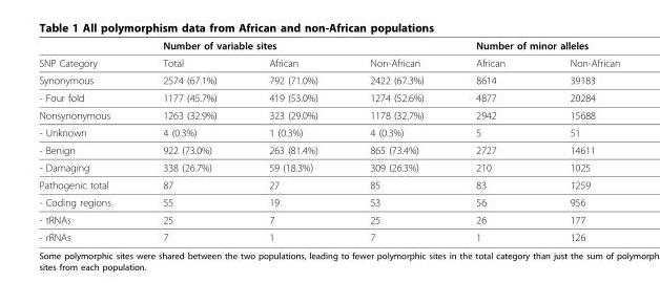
<table><thead><tr><td rowspan="2">SNP Category</td><td colspan="3">Number of variable sites</td><td colspan="2">Number of minor alleles</td></tr><tr><td>Total</td><td>African</td><td>Non-African</td><td>African</td><td>Non-African</td></tr></thead><tbody><tr><td>Synonymous</td><td>2574 (67.1%)</td><td>792 (71.0%)</td><td>2422 (67.3%)</td><td>8614</td><td>39183</td></tr><tr><td>- Four fold</td><td>1177 (45.7%)</td><td>419 (53.0%)</td><td>1274 (52.6%)</td><td>4877</td><td>20284</td></tr><tr><td>Nonsynonymous</td><td>1263 (32.9%)</td><td>323 (29.0%)</td><td>1178 (32.7%)</td><td>2942</td><td>15688</td></tr><tr><td>- Unknown</td><td>4 (0.3%)</td><td>1 (0.3%)</td><td>4 (0.3%)</td><td>5</td><td>51</td></tr><tr><td>- Benign</td><td>922 (73.0%)</td><td>263 (81.4%)</td><td>865 (73.4%)</td><td>2727</td><td>14611</td></tr><tr><td>- Damaging</td><td>338 (26.7%)</td><td>59 (18.3%)</td><td>309 (26.3%)</td><td>210</td><td>1025</td></tr><tr><td>Pathogenic total</td><td>87</td><td>27</td><td>85</td><td>83</td><td>1259</td></tr><tr><td>- Coding regions</td><td>55</td><td>19</td><td>53</td><td>56</td><td>956</td></tr><tr><td>- tRNAs</td><td>25</td><td>7</td><td>25</td><td>26</td><td>177</td></tr><tr><td>- rRNAs</td><td>7</td><td>1</td><td>7</td><td>1</td><td>126</td></tr></tbody></table>